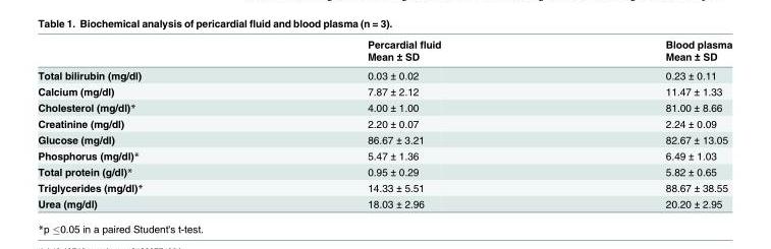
<table><thead><tr><td rowspan="2"></td><td rowspan="2">Percardial fluid Mean ± SD</td><td rowspan="2">Blood plasma Mean ± SD</td></tr><tr></tr></thead><tbody><tr><td>Total bilirubin (mg/dl)</td><td>0.03 ± 0.02</td><td>0.23 ± 0.11</td></tr><tr><td>Calcium (mg/dl)</td><td>7.87 ± 2.12</td><td>11.47 ± 1.33</td></tr><tr><td>Cholesterol (mg/dl)*</td><td>4.00 ± 1.00</td><td>81.00 ± 8.66</td></tr><tr><td>Creatinine (mg/dl)</td><td>2.20 ± 0.07</td><td>2.24 ± 0.09</td></tr><tr><td>Glucose (mg/dl)</td><td>86.67 ± 3.21</td><td>82.67 ± 13.05</td></tr><tr><td>Phosphorus (mg/dl)*</td><td>5.47 ± 1.36</td><td>6.49 ± 1.03</td></tr><tr><td>Total protein (g/dl)*</td><td>0.95 ± 0.29</td><td>5.82 ± 0.65</td></tr><tr><td>Triglycerides (mg/dl)*</td><td>14.33 ± 5.51</td><td>88.67 ± 38.55</td></tr><tr><td>Urea (mg/dl)</td><td>18.03 ± 2.96</td><td>20.20 ± 2.95</td></tr></tbody></table>